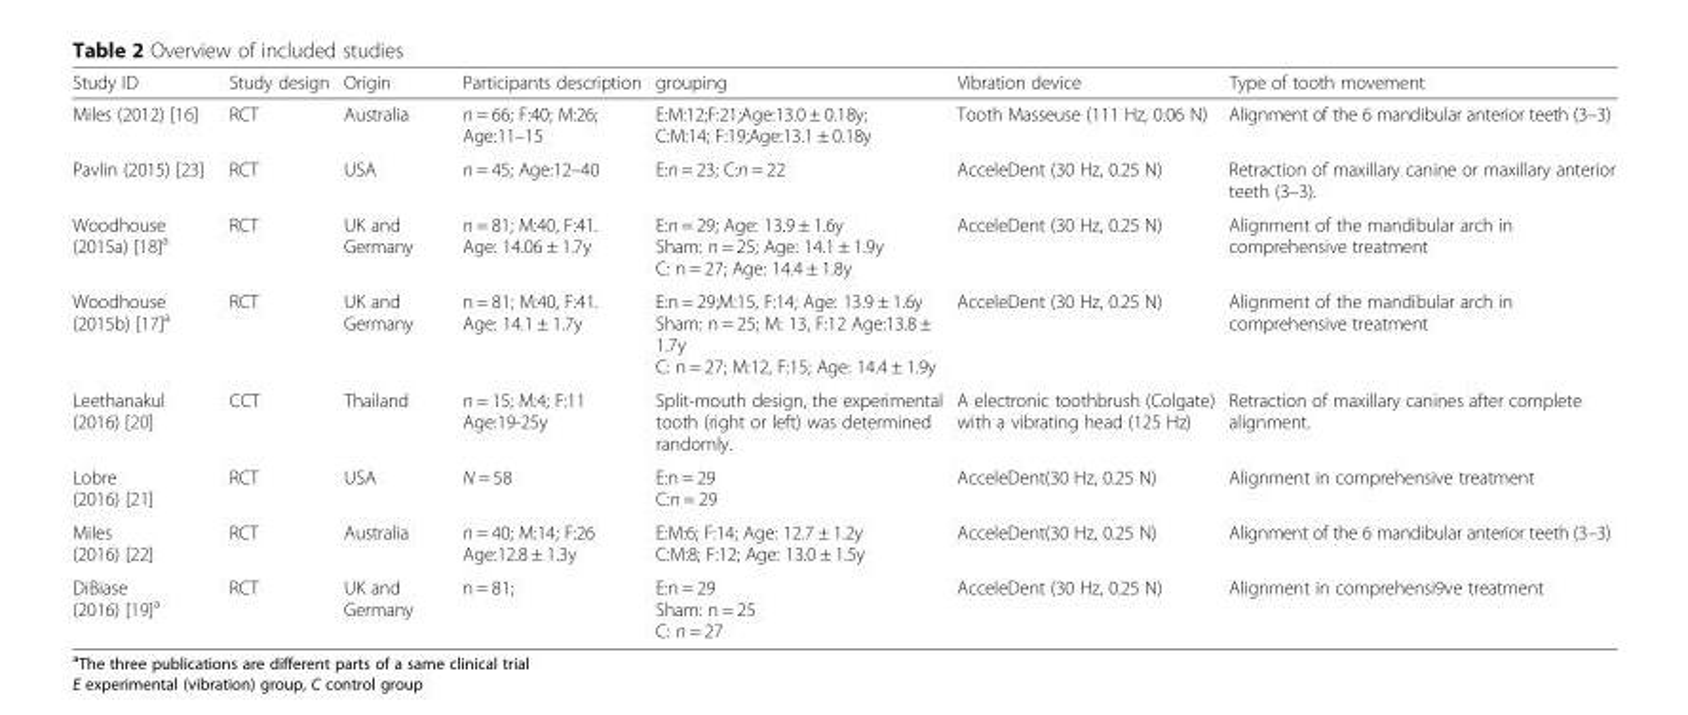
<table><thead><tr><td>Study ID</td><td>Study design</td><td>Origin</td><td>Participants description</td><td>grouping</td><td>Vibration device</td><td>Type of tooth movement</td></tr></thead><tbody><tr><td>Miles (2012) [16]</td><td>RCT</td><td>Australia</td><td>n = 66; F:40; M:26; Age:11–15</td><td>E:M:12;F:21;Age:13.0 ± 0.18y; C:M:14; F:19;Age:13.1 ± 0.18y</td><td>Tooth Masseuse (111 Hz, 0.06 N)</td><td>Alignment of the 6 mandibular anterior teeth (3–3)</td></tr><tr><td>Pavlin (2015) [23]</td><td>RCT</td><td>USA</td><td>n = 45; Age:12–40</td><td>E:n = 23; C:n = 22</td><td>AcceleDent (30 Hz, 0.25 N)</td><td>Retraction of maxillary canine or maxillary anterior teeth (3–3).</td></tr><tr><td>Woodhouse (2015a) [18]<sup>a</sup></td><td>RCT</td><td>UK and Germany</td><td>n = 81; M:40, F:41. Age: 14.06 ± 1.7y</td><td>E:n = 29; Age: 13.9 ± 1.6y Sham: n = 25; Age: 14.1 ± 1.9y C: n = 27; Age: 14.4 ± 1.8y</td><td>AcceleDent (30 Hz, 0.25 N)</td><td>Alignment of the mandibular arch in comprehensive treatment</td></tr><tr><td>Woodhouse (2015b) [17]<sup>a</sup></td><td>RCT</td><td>UK and Germany</td><td>n = 81; M:40, F:41. Age: 14.1 ± 1.7y</td><td>E:n = 29;M:15, F:14; Age: 13.9 ± 1.6y Sham: n = 25; M: 13, F:12 Age:13.8 ± 1.7y C: n = 27; M:12, F:15; Age: 14.4 ± 1.9y</td><td>AcceleDent (30 Hz, 0.25 N)</td><td>Alignment of the mandibular arch in comprehensive treatment</td></tr><tr><td>Leethanakul (2016) [20]</td><td>CCT</td><td>Thailand</td><td>n = 15; M:4; F:11 Age:19-25y</td><td>Split-mouth design, the experimental tooth (right or left) was determined randomly.</td><td>A electronic toothbrush (Colgate) with a vibrating head (125 Hz)</td><td>Retraction of maxillary canines after complete alignment.</td></tr><tr><td>Lobre (2016) [21]</td><td>RCT</td><td>USA</td><td>N = 58</td><td>E:n = 29 C:n = 29</td><td>AcceleDent(30 Hz, 0.25 N)</td><td>Alignment in comprehensive treatment</td></tr><tr><td>Miles (2016) [22]</td><td>RCT</td><td>Australia</td><td>n = 40; M:14; F:26 Age:12.8 ± 1.3y</td><td>E:M:6; F:14; Age: 12.7 ± 1.2y C:M:8; F:12; Age: 13.0 ± 1.5y</td><td>AcceleDent(30 Hz, 0.25 N)</td><td>Alignment of the 6 mandibular anterior teeth (3–3)</td></tr><tr><td>DiBiase (2016) [19]<sup>a</sup></td><td>RCT</td><td>UK and Germany</td><td>n = 81;</td><td>E:n = 29 Sham: n = 25 C: n = 27</td><td>AcceleDent (30 Hz, 0.25 N)</td><td>Alignment in comprehensi9ve treatment</td></tr></tbody></table>